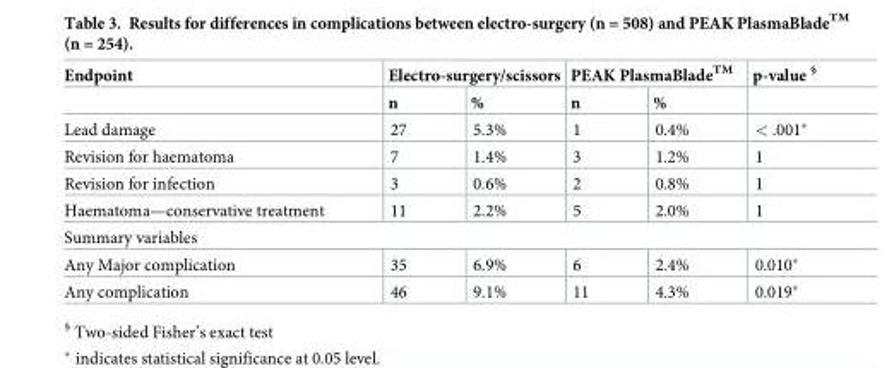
<table><thead><tr><td rowspan="2">Endpoint</td><td colspan="2">Electro-surgery/scissors</td><td colspan="2">PEAK PlasmaBlade<sup>TM</sup></td><td rowspan="2">p-value <sup>§</sup></td></tr><tr><td>n</td><td>%</td><td>n</td><td>%</td></tr></thead><tbody><tr><td>Lead damage</td><td>27</td><td>5.3%</td><td>1</td><td>0.4%</td><td>&lt; .001*</td></tr><tr><td>Revision for haematoma</td><td>7</td><td>1.4%</td><td>3</td><td>1.2%</td><td>1</td></tr><tr><td>Revision for infection</td><td>3</td><td>0.6%</td><td>2</td><td>0.8%</td><td>1</td></tr><tr><td>Haematoma—conservative treatment</td><td>11</td><td>2.2%</td><td>5</td><td>2.0%</td><td>1</td></tr><tr><td colspan="6">Summary variables</td></tr><tr><td>Any Major complication</td><td>35</td><td>6.9%</td><td>6</td><td>2.4%</td><td>0.010*</td></tr><tr><td>Any complication</td><td>46</td><td>9.1%</td><td>11</td><td>4.3%</td><td>0.019*</td></tr></tbody></table>